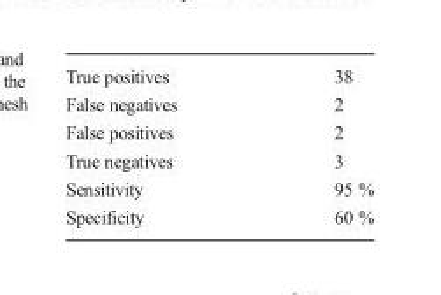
<table><tbody><tr><td>True positives</td><td>38</td></tr><tr><td>False negatives</td><td>2</td></tr><tr><td>False positives</td><td>2</td></tr><tr><td>True negatives</td><td>3</td></tr><tr><td>Sensitivity</td><td>95 %</td></tr><tr><td>Specificity</td><td>60 %</td></tr></tbody></table>